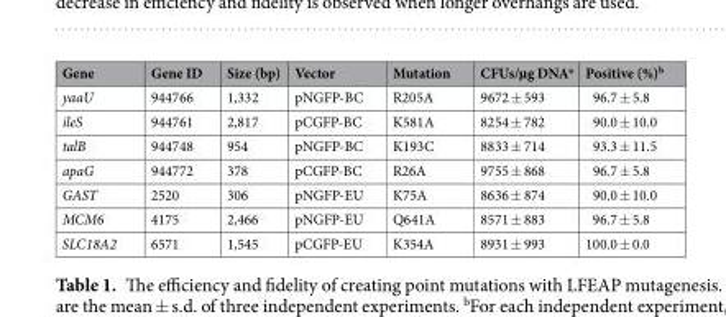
<table><thead><tr><td>Gene</td><td>Gene ID</td><td>Size (bp)</td><td>Vector</td><td>Mutation</td><td>CFUs/µg DNA<sup>a</sup></td><td>Positive (%)<sup>b</sup></td></tr></thead><tbody><tr><td>yaaU</td><td>944766</td><td>1,332</td><td>pNGFP-BC</td><td>R205A</td><td>9672 ± 593</td><td>96.7 ± 5.8</td></tr><tr><td>ileS</td><td>944761</td><td>2,817</td><td>pCGFP-BC</td><td>K581A</td><td>8254 ± 782</td><td>90.0 ± 10.0</td></tr><tr><td>talB</td><td>944748</td><td>954</td><td>pNGFP-BC</td><td>K193C</td><td>8833 ± 714</td><td>93.3 ± 11.5</td></tr><tr><td>apaG</td><td>944772</td><td>378</td><td>pCGFP-BC</td><td>R26A</td><td>9755 ± 868</td><td>96.7 ± 5.8</td></tr><tr><td>GAST</td><td>2520</td><td>306</td><td>pNGFP-EU</td><td>K75A</td><td>8636 ± 874</td><td>90.0 ± 10.0</td></tr><tr><td>MCM6</td><td>4175</td><td>2,466</td><td>pNGFP-EU</td><td>Q641A</td><td>8571 ± 883</td><td>96.7 ± 5.8</td></tr><tr><td>SLC18A2</td><td>6571</td><td>1,545</td><td>pCGFP-EU</td><td>K354A</td><td>8931 ± 993</td><td>100.0 ± 0.0</td></tr></tbody></table>